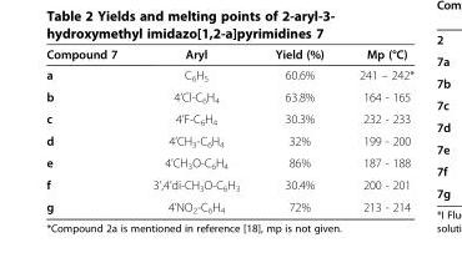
<table><thead><tr><td>Compound 7</td><td>Aryl</td><td>Yield (%)</td><td>Mp (°C)</td></tr></thead><tbody><tr><td>a</td><td>C<sub>6</sub>H<sub>5</sub></td><td>60.6%</td><td>241 – 242*</td></tr><tr><td>b</td><td>4’Cl-C<sub>6</sub>H<sub>4</sub></td><td>63.8%</td><td>164 - 165</td></tr><tr><td>c</td><td>4’F-C<sub>6</sub>H<sub>4</sub></td><td>30.3%</td><td>232 - 233</td></tr><tr><td>d</td><td>4’CH<sub>3</sub>-C<sub>6</sub>H<sub>4</sub></td><td>32%</td><td>199 - 200</td></tr><tr><td>e</td><td>4’CH<sub>3</sub>O-C<sub>6</sub>H<sub>4</sub></td><td>86%</td><td>187 - 188</td></tr><tr><td>f</td><td>3’,4’di-CH<sub>3</sub>O-C<sub>6</sub>H<sub>3</sub></td><td>30.4%</td><td>200 - 201</td></tr><tr><td>g</td><td>4’NO<sub>2</sub>-C<sub>6</sub>H<sub>4</sub></td><td>72%</td><td>213 - 214</td></tr></tbody></table>